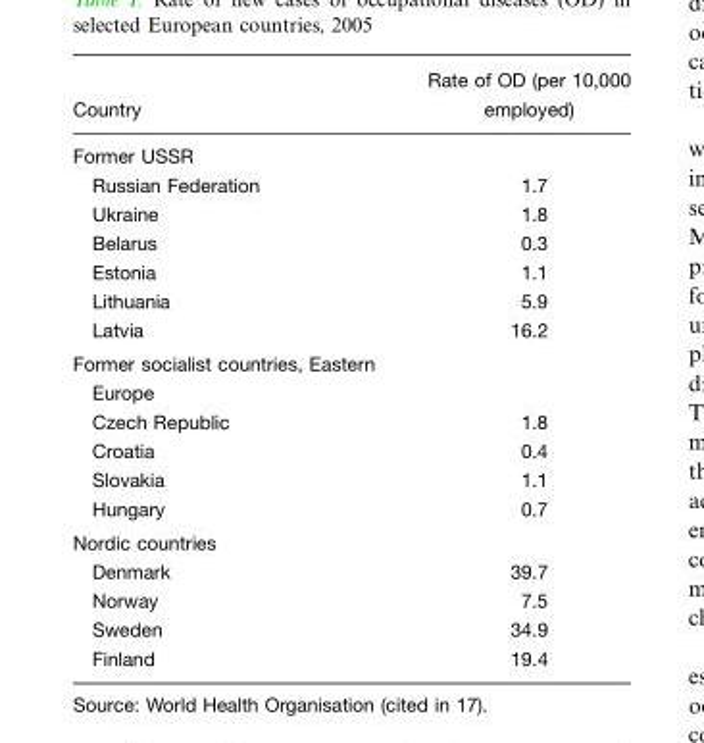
<table><thead><tr><td>Country</td><td>Rate of OD (per 10,000 employed)</td></tr></thead><tbody><tr><td colspan="2">Former USSR</td></tr><tr><td>Russian Federation</td><td>1.7</td></tr><tr><td>Ukraine</td><td>1.8</td></tr><tr><td>Belarus</td><td>0.3</td></tr><tr><td>Estonia</td><td>1.1</td></tr><tr><td>Lithuania</td><td>5.9</td></tr><tr><td>Latvia</td><td>16.2</td></tr><tr><td colspan="2">Former socialist countries, Eastern Europe</td></tr><tr><td>Czech Republic</td><td>1.8</td></tr><tr><td>Croatia</td><td>0.4</td></tr><tr><td>Slovakia</td><td>1.1</td></tr><tr><td>Hungary</td><td>0.7</td></tr><tr><td colspan="2">Nordic countries</td></tr><tr><td>Denmark</td><td>39.7</td></tr><tr><td>Norway</td><td>7.5</td></tr><tr><td>Sweden</td><td>34.9</td></tr><tr><td>Finland</td><td>19.4</td></tr></tbody></table>